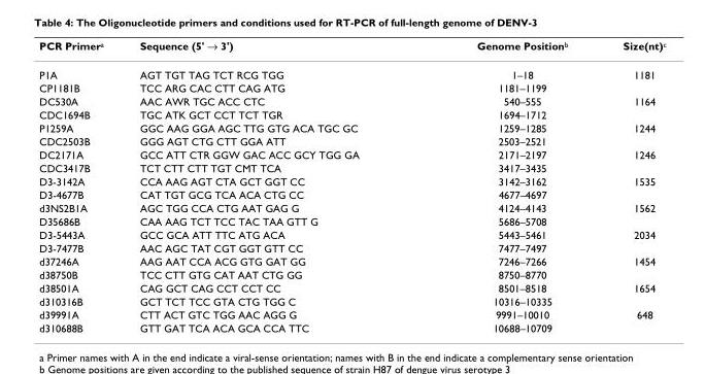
<table><thead><tr><td>PCR Primer<sup>a</sup></td><td>Sequence (5&#x27; → 3&#x27;)</td><td>Genome Position<sup>b</sup></td><td>Size(nt)<sup>c</sup></td></tr></thead><tbody><tr><td>P1A</td><td>AGT TGT TAG TCT RCG TGG</td><td>1–18</td><td>1181</td></tr><tr><td>CP1181B</td><td>TCC ARG CAC CTT CAG ATG</td><td>1181–1199</td><td></td></tr><tr><td>DC530A</td><td>AAC AWR TGC ACC CTC</td><td>540–555</td><td>1164</td></tr><tr><td>CDC1694B</td><td>TGC ATK GCT CCT TCT TGR</td><td>1694–1712</td><td></td></tr><tr><td>P1259A</td><td>GGC AAG GGA AGC TTG GTG ACA TGC GC</td><td>1259–1285</td><td>1244</td></tr><tr><td>CDC2503B</td><td>GGG AGT CTG CTT GGA ATT</td><td>2503–2521</td><td></td></tr><tr><td>DC2171A</td><td>GCC ATT CTR GGW GAC ACC GCY TGG GA</td><td>2171–2197</td><td>1246</td></tr><tr><td>CDC3417B</td><td>TCT CTT CTT TGT CMT TCA</td><td>3417–3435</td><td></td></tr><tr><td>D3-3142A</td><td>CCA AAG AGT CTA GCT GGT CC</td><td>3142–3162</td><td>1535</td></tr><tr><td>D3-4677B</td><td>CAT TGT GCG TCA ACA CTG CC</td><td>4677–4697</td><td></td></tr><tr><td>d3NS2B1A</td><td>AGC TGG CCA CTG AAT GAG G</td><td>4124–4143</td><td>1562</td></tr><tr><td>D35686B</td><td>CAA AAG TCT TCC TAC TAA GTT G</td><td>5686–5708</td><td></td></tr><tr><td>D3-5443A</td><td>GCC GCA ATT TTC ATG ACA</td><td>5443–5461</td><td>2034</td></tr><tr><td>D3-7477B</td><td>AAC AGC TAT CGT GGT GTT CC</td><td>7477–7497</td><td></td></tr><tr><td>d37246A</td><td>AAG AAT CCA ACG GTG GAT GG</td><td>7246–7266</td><td>1454</td></tr><tr><td>d38750B</td><td>TCC CTT GTG CAT AAT CTG GG</td><td>8750–8770</td><td></td></tr><tr><td>d38501A</td><td>CAG GCT CAG CCT CCT CC</td><td>8501–8518</td><td>1654</td></tr><tr><td>d310316B</td><td>GCT TCT TCC GTA CTG TGG C</td><td>10316–10335</td><td></td></tr><tr><td>d39991A</td><td>CTT ACT GTC TGG AAC AGG G</td><td>9991–10010</td><td>648</td></tr><tr><td>d310688B</td><td>GTT GAT TCA ACA GCA CCA TTC</td><td>10688–10709</td><td></td></tr></tbody></table>